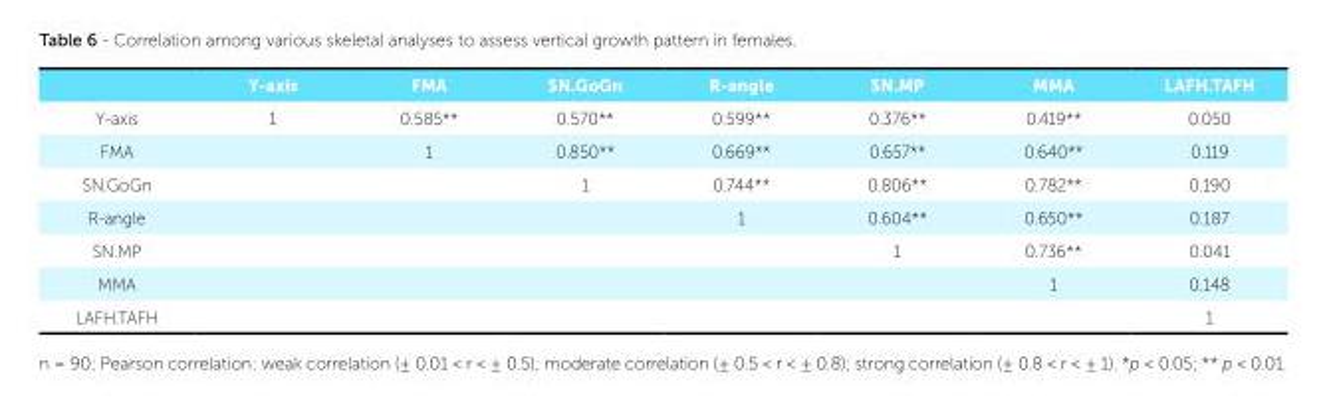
<table><thead><tr><td></td><td>Y-axis</td><td>FMA</td><td>SN.GoGn</td><td>R-angle</td><td>SN.MP</td><td>MMA</td><td>LAFH.TAFH</td></tr></thead><tbody><tr><td>Y-axis</td><td>1</td><td>0.585**</td><td>0.570**</td><td>0.599**</td><td>0.376**</td><td>0.419**</td><td>0.050</td></tr><tr><td>FMA</td><td></td><td>1</td><td>0.850**</td><td>0.669**</td><td>0.657**</td><td>0.640**</td><td>0.119</td></tr><tr><td>SN.GoGn</td><td></td><td></td><td>1</td><td>0.744**</td><td>0.806**</td><td>0.782**</td><td>0.190</td></tr><tr><td>R-angle</td><td></td><td></td><td></td><td>1</td><td>0.604**</td><td>0.650**</td><td>0.187</td></tr><tr><td>SN.MP</td><td></td><td></td><td></td><td></td><td>1</td><td>0.736**</td><td>0.041</td></tr><tr><td>MMA</td><td></td><td></td><td></td><td></td><td></td><td>1</td><td>0.148</td></tr><tr><td>LAFH.TAFH</td><td></td><td></td><td></td><td></td><td></td><td></td><td>1</td></tr></tbody></table>